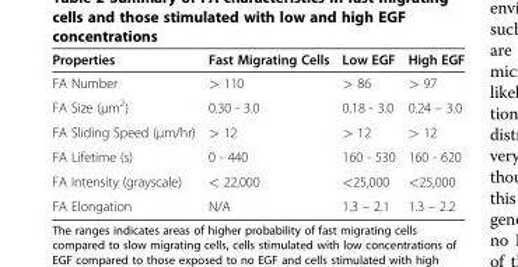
<table><thead><tr><td>Properties</td><td>Fast Migrating Cells</td><td>Low EGF</td><td>High EGF</td></tr></thead><tbody><tr><td>FA Number</td><td>&gt; 110</td><td>&gt; 86</td><td>&gt; 97</td></tr><tr><td>FA Size (μm<sup>2</sup>)</td><td>0.30 - 3.0</td><td>0.18 - 3.0</td><td>0.24 – 3.0</td></tr><tr><td>FA Sliding Speed (μm/hr)</td><td>&gt; 12</td><td>&gt; 12</td><td>&gt; 12</td></tr><tr><td>FA Lifetime (s)</td><td>0 - 440</td><td>160 - 530</td><td>160 - 620</td></tr><tr><td>FA Intensity (grayscale)</td><td>&lt; 22,000</td><td>&lt;25,000</td><td>&lt;25,000</td></tr><tr><td>FA Elongation</td><td>N/A</td><td>1.3 – 2.1</td><td>1.3 – 2.2</td></tr></tbody></table>